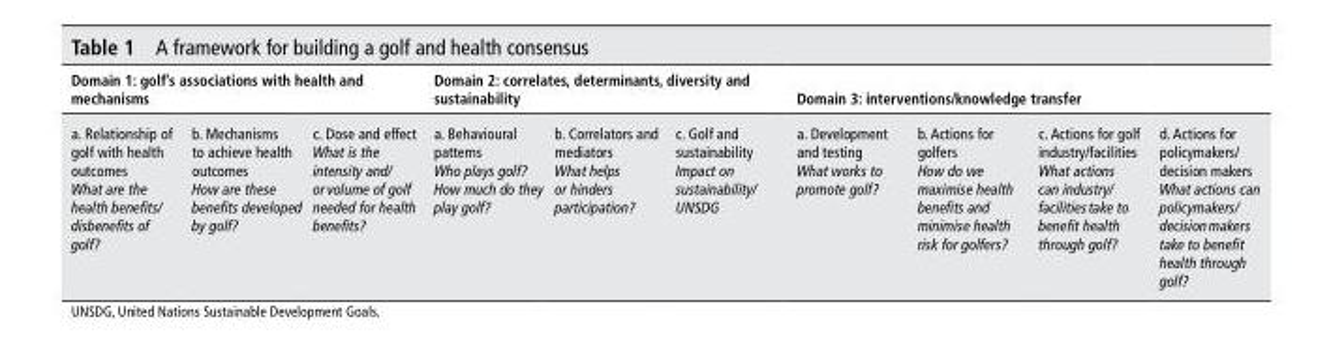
<table><thead><tr><td colspan="3">domain 1: golf’s associations with health and mechanisms</td><td colspan="3">domain 2: correlates, determinants, diversity and sustainability</td><td colspan="4">domain 3: interventions/knowledge transfer</td></tr><tr><td>a. Relationship of golf with health outcomes What are the health benefits/ disbenefits of golf?</td><td>b. Mechanisms to achieve health outcomes How are these benefits developed by golf?</td><td>c. Dose and effect What is the intensity and/ or volume of golf needed for health benefits?</td><td>a. Behavioural patterns Who plays golf? How much do they play golf?</td><td>b. Correlators and mediators What helps or hinders participation?</td><td>c. Golf and sustainability Impact on sustainability/ UNSDG</td><td>a. Development and testing What works to promote golf?</td><td>b. Actions for golfers How do we maximise health benefits and minimise health risk for golfers?</td><td>c. Actions for golf industry/facilities What actions can industry/ facilities take to benefit health through golf?</td><td>d. Actions for policymakers/ decision makers What actions can policymakers/ decision makers take to benefit health through golf?</td></tr></thead><tbody></tbody></table>